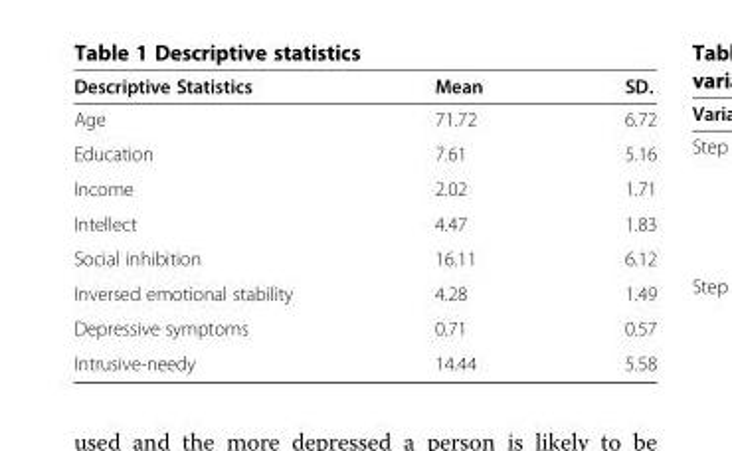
<table><thead><tr><td>Descriptive Statistics</td><td>Mean</td><td>SD.</td></tr></thead><tbody><tr><td>Age</td><td>71.72</td><td>6.72</td></tr><tr><td>Education</td><td>7.61</td><td>5.16</td></tr><tr><td>Income</td><td>2.02</td><td>1.71</td></tr><tr><td>Intellect</td><td>4.47</td><td>1.83</td></tr><tr><td>Social inhibition</td><td>16.11</td><td>6.12</td></tr><tr><td>Inversed emotional stability</td><td>4.28</td><td>1.49</td></tr><tr><td>Depressive symptoms</td><td>0.71</td><td>0.57</td></tr><tr><td>Intrusive-needy</td><td>14.44</td><td>5.58</td></tr></tbody></table>